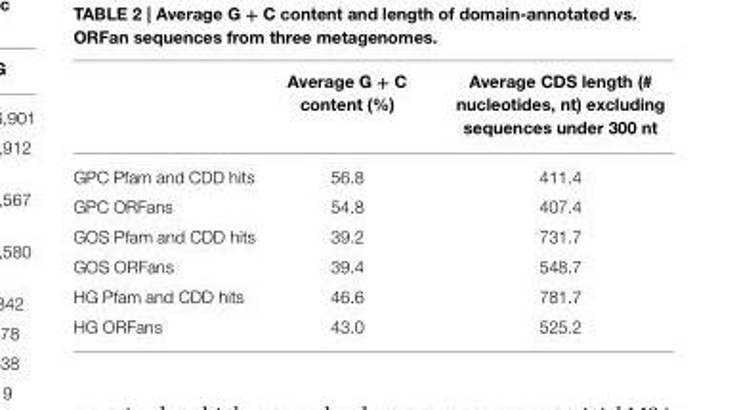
<table><thead><tr><td></td><td>Average G + C content (%)</td><td>Average CDS length (# nucleotides, nt) excluding sequences under 300 nt</td></tr></thead><tbody><tr><td>GPC Pfam and CDD hits</td><td>56.8</td><td>411.4</td></tr><tr><td>GPC ORFans</td><td>54.8</td><td>407.4</td></tr><tr><td>GOS Pfam and CDD hits</td><td>39.2</td><td>731.7</td></tr><tr><td>GOS ORFans</td><td>39.4</td><td>548.7</td></tr><tr><td>HG Pfam and CDD hits</td><td>46.6</td><td>781.7</td></tr><tr><td>HG ORFans</td><td>43.0</td><td>525.2</td></tr></tbody></table>